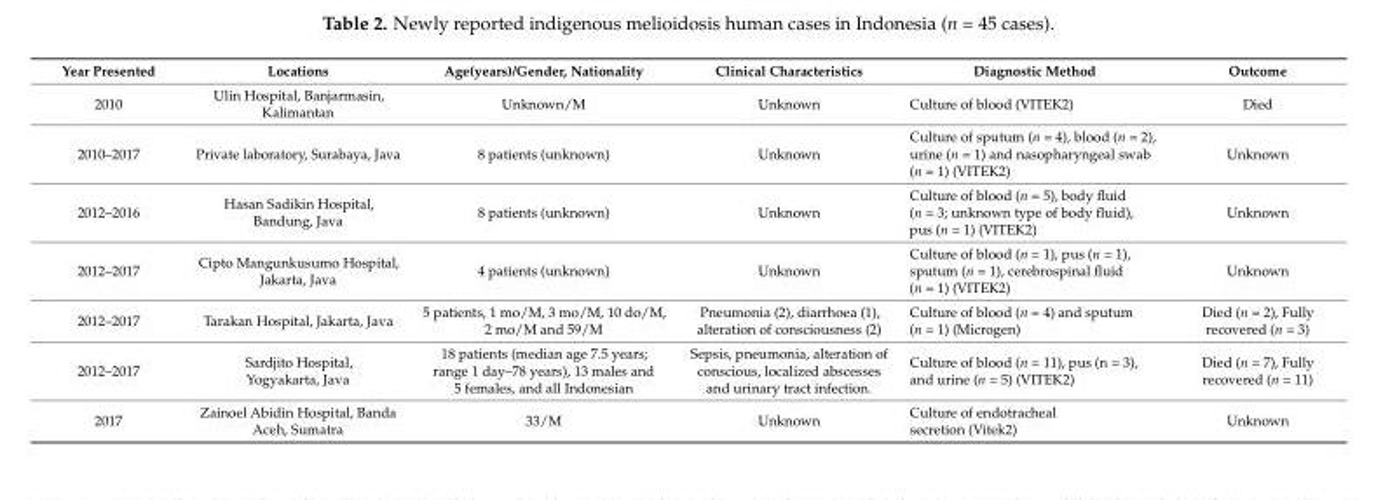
<table><thead><tr><td>Year Presented</td><td>Locations</td><td>Age(years)/Gender, Nationality</td><td>Clinical Characteristics</td><td>Diagnostic Method</td><td>Outcome</td></tr></thead><tbody><tr><td>2010</td><td>Ulin Hospital, Banjarmasin, Kalimantan</td><td>Unknown/M</td><td>Unknown</td><td>Culture of blood (VITEK2)</td><td>Died</td></tr><tr><td>2010–2017</td><td>Private laboratory, Surabaya, Java</td><td>8 patients (unknown)</td><td>Unknown</td><td>Culture of sputum (n = 4), blood (n = 2), urine (n = 1) and nasopharyngeal swab (n = 1) (VITEK2)</td><td>Unknown</td></tr><tr><td>2012–2016</td><td>Hasan Sadikin Hospital, Bandung, Java</td><td>8 patients (unknown)</td><td>Unknown</td><td>Culture of blood (n = 5), body fluid (n = 3; unknown type of body fluid), pus (n = 1) (VITEK2)</td><td>Unknown</td></tr><tr><td>2012–2017</td><td>Cipto Mangunkusumo Hospital, Jakarta, Java</td><td>4 patients (unknown)</td><td>Unknown</td><td>Culture of blood (n = 1), pus (n = 1), sputum (n = 1), cerebrospinal fluid (n = 1) (VITEK2)</td><td>Unknown</td></tr><tr><td>2012–2017</td><td>Tarakan Hospital, Jakarta, Java</td><td>5 patients, 1 mo/M, 3 mo/M, 10 do/M, 2 mo/M and 59/M</td><td>Pneumonia (2), diarrhoea (1), alteration of consciousness (2)</td><td>Culture of blood (n = 4) and sputum (n = 1) (Microgen)</td><td>Died (n = 2), Fully recovered (n = 3)</td></tr><tr><td>2012–2017</td><td>Sardjito Hospital, Yogyakarta, Java</td><td>18 patients (median age 7.5 years; range 1 day–78 years), 13 males and 5 females, and all Indonesian</td><td>Sepsis, pneumonia, alteration of conscious, localized abscesses and urinary tract infection.</td><td>Culture of blood (n = 11), pus (n = 3), and urine (n = 5) (VITEK2)</td><td>Died (n = 7), Fully recovered (n = 11)</td></tr><tr><td>2017</td><td>Zainoel Abidin Hospital, Banda Aceh, Sumatra</td><td>33/M</td><td>Unknown</td><td>Culture of endotracheal secretion (Vitek2)</td><td>Unknown</td></tr></tbody></table>